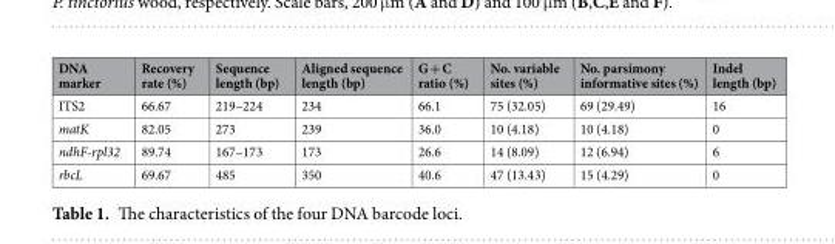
<table><thead><tr><td>DNA marker</td><td>Recovery rate (%)</td><td>Sequence length (bp)</td><td>Aligned sequence length (bp)</td><td>G + C ratio (%)</td><td>No. variable sites (%)</td><td>No. parsimony informative sites (%)</td><td>Indel length (bp)</td></tr></thead><tbody><tr><td>ITS2</td><td>66.67</td><td>219–224</td><td>234</td><td>66.1</td><td>75 (32.05)</td><td>69 (29.49)</td><td>16</td></tr><tr><td>matK</td><td>82.05</td><td>273</td><td>239</td><td>36.0</td><td>10 (4.18)</td><td>10 (4.18)</td><td>0</td></tr><tr><td>ndhF-rpl32</td><td>89.74</td><td>167–173</td><td>173</td><td>26.6</td><td>14 (8.09)</td><td>12 (6.94)</td><td>6</td></tr><tr><td>rbcL</td><td>69.67</td><td>485</td><td>350</td><td>40.6</td><td>47 (13.43)</td><td>15 (4.29)</td><td>0</td></tr></tbody></table>